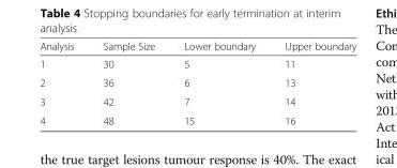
<table><thead><tr><td>Analysis</td><td>Sample Size</td><td>Lower boundary</td><td>Upper boundary</td></tr></thead><tbody><tr><td>1</td><td>30</td><td>5</td><td>11</td></tr><tr><td>2</td><td>36</td><td>6</td><td>13</td></tr><tr><td>3</td><td>42</td><td>7</td><td>14</td></tr><tr><td>4</td><td>48</td><td>15</td><td>16</td></tr></tbody></table>